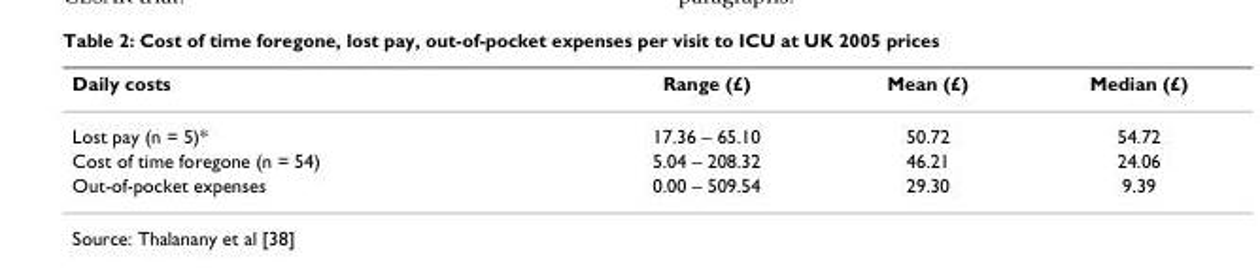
<table><thead><tr><td>Daily costs</td><td>Range (£)</td><td>Mean (£)</td><td>Median (£)</td></tr></thead><tbody><tr><td>Lost pay (n = 5)*</td><td>17.36 – 65.10</td><td>50.72</td><td>54.72</td></tr><tr><td>Cost of time foregone (n = 54)</td><td>5.04 – 208.32</td><td>46.21</td><td>24.06</td></tr><tr><td>Out-of-pocket expenses</td><td>0.00 – 509.54</td><td>29.30</td><td>9.39</td></tr></tbody></table>